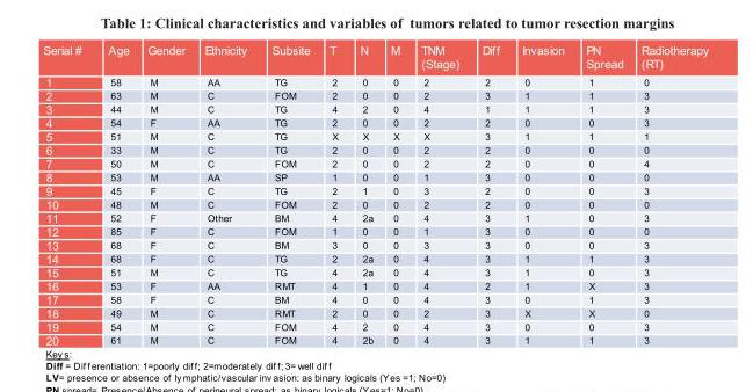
<table><thead><tr><td>Serial #</td><td>Age</td><td>Gender</td><td>Ethnicity</td><td>Subsite</td><td>T</td><td>N</td><td>M</td><td>TNM (Stage)</td><td>Diff</td><td>Invasion</td><td>PN Spread</td><td>Radiotherapy (RT)</td></tr></thead><tbody><tr><td>1</td><td>58</td><td>M</td><td>AA</td><td>TG</td><td>2</td><td>0</td><td>0</td><td>2</td><td>2</td><td>0</td><td>1</td><td>0</td></tr><tr><td>2</td><td>63</td><td>M</td><td>C</td><td>FOM</td><td>2</td><td>0</td><td>0</td><td>2</td><td>3</td><td>1</td><td>1</td><td>3</td></tr><tr><td>3</td><td>44</td><td>M</td><td>C</td><td>TG</td><td>4</td><td>2</td><td>0</td><td>4</td><td>1</td><td>1</td><td>1</td><td>3</td></tr><tr><td>4</td><td>54</td><td>F</td><td>AA</td><td>TG</td><td>2</td><td>0</td><td>0</td><td>2</td><td>2</td><td>0</td><td>0</td><td>3</td></tr><tr><td>5</td><td>51</td><td>M</td><td>C</td><td>TG</td><td>X</td><td>X</td><td>X</td><td>X</td><td>3</td><td>1</td><td>1</td><td>1</td></tr><tr><td>6</td><td>33</td><td>M</td><td>C</td><td>TG</td><td>2</td><td>0</td><td>0</td><td>2</td><td>2</td><td>0</td><td>0</td><td>0</td></tr><tr><td>7</td><td>50</td><td>M</td><td>C</td><td>FOM</td><td>2</td><td>0</td><td>0</td><td>2</td><td>2</td><td>0</td><td>0</td><td>4</td></tr><tr><td>8</td><td>53</td><td>M</td><td>AA</td><td>SP</td><td>1</td><td>0</td><td>0</td><td>1</td><td>3</td><td>0</td><td>0</td><td>0</td></tr><tr><td>9</td><td>45</td><td>F</td><td>C</td><td>TG</td><td>2</td><td>1</td><td>0</td><td>3</td><td>2</td><td>0</td><td>0</td><td>3</td></tr><tr><td>10</td><td>48</td><td>M</td><td>C</td><td>FOM</td><td>2</td><td>0</td><td>0</td><td>2</td><td>2</td><td>0</td><td>0</td><td>0</td></tr><tr><td>11</td><td>52</td><td>F</td><td>Other</td><td>BM</td><td>4</td><td>2a</td><td>0</td><td>4</td><td>3</td><td>1</td><td>0</td><td>3</td></tr><tr><td>12</td><td>85</td><td>F</td><td>C</td><td>FOM</td><td>1</td><td>0</td><td>0</td><td>1</td><td>3</td><td>0</td><td>0</td><td>0</td></tr><tr><td>13</td><td>68</td><td>F</td><td>C</td><td>BM</td><td>3</td><td>0</td><td>0</td><td>3</td><td>3</td><td>0</td><td>0</td><td>3</td></tr><tr><td>14</td><td>68</td><td>F</td><td>C</td><td>TG</td><td>2</td><td>2a</td><td>0</td><td>4</td><td>3</td><td>1</td><td>1</td><td>3</td></tr><tr><td>15</td><td>51</td><td>M</td><td>C</td><td>TG</td><td>4</td><td>2a</td><td>0</td><td>4</td><td>3</td><td>1</td><td>0</td><td>3</td></tr><tr><td>16</td><td>53</td><td>F</td><td>AA</td><td>RMT</td><td>4</td><td>1</td><td>0</td><td>4</td><td>2</td><td>1</td><td>X</td><td>3</td></tr><tr><td>17</td><td>58</td><td>F</td><td>C</td><td>BM</td><td>4</td><td>0</td><td>0</td><td>4</td><td>3</td><td>0</td><td>1</td><td>3</td></tr><tr><td>18</td><td>49</td><td>M</td><td>C</td><td>RMT</td><td>2</td><td>0</td><td>0</td><td>2</td><td>3</td><td>X</td><td>X</td><td>0</td></tr><tr><td>19</td><td>54</td><td>M</td><td>C</td><td>FOM</td><td>4</td><td>2</td><td>0</td><td>4</td><td>3</td><td>0</td><td>0</td><td>3</td></tr><tr><td>20</td><td>61</td><td>M</td><td>C</td><td>FOM</td><td>4</td><td>2b</td><td>0</td><td>4</td><td>3</td><td>1</td><td>1</td><td>3</td></tr></tbody></table>